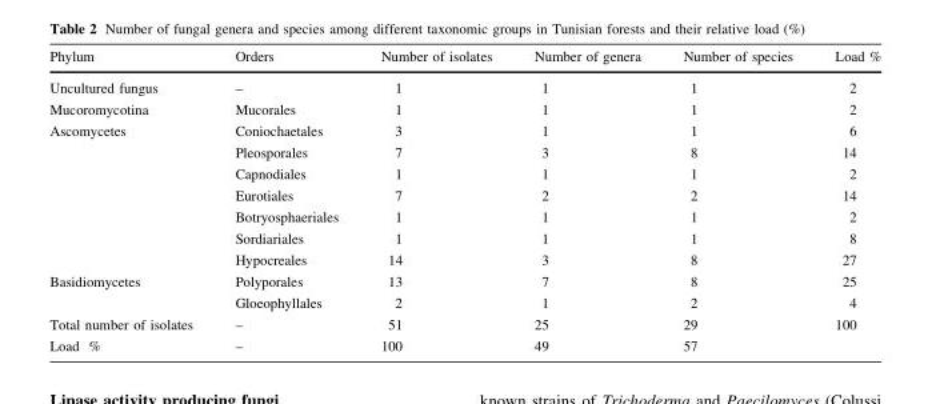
<table><thead><tr><td>Phylum</td><td>Orders</td><td>Number of isolates</td><td>Number of genera</td><td>Number of species</td><td>Load %</td></tr></thead><tbody><tr><td>Uncultured fungus</td><td>–</td><td>1</td><td>1</td><td>1</td><td>2</td></tr><tr><td>Mucoromycotina</td><td>Mucorales</td><td>1</td><td>1</td><td>1</td><td>2</td></tr><tr><td rowspan="7">Ascomycetes</td><td>Coniochaetales</td><td>3</td><td>1</td><td>1</td><td>6</td></tr><tr><td>Pleosporales</td><td>7</td><td>3</td><td>8</td><td>14</td></tr><tr><td>Capnodiales</td><td>1</td><td>1</td><td>1</td><td>2</td></tr><tr><td>Eurotiales</td><td>7</td><td>2</td><td>2</td><td>14</td></tr><tr><td>Botryosphaeriales</td><td>1</td><td>1</td><td>1</td><td>2</td></tr><tr><td>Sordiariales</td><td>1</td><td>1</td><td>1</td><td>8</td></tr><tr><td>Hypocreales</td><td>14</td><td>3</td><td>8</td><td>27</td></tr><tr><td rowspan="2">Basidiomycetes</td><td>Polyporales</td><td>13</td><td>7</td><td>8</td><td>25</td></tr><tr><td>Gloeophyllales</td><td>2</td><td>1</td><td>2</td><td>4</td></tr><tr><td>Total number of isolates</td><td>–</td><td>51</td><td>25</td><td>29</td><td>100</td></tr><tr><td>Load %</td><td>–</td><td>100</td><td>49</td><td>57</td><td></td></tr></tbody></table>